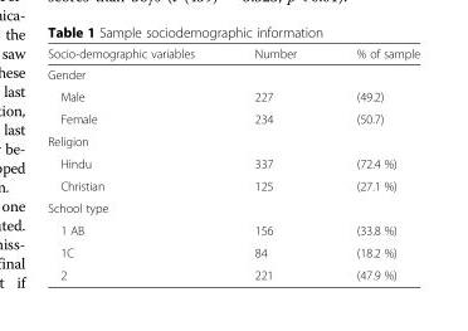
<table><thead><tr><td>Socio-demographic variables</td><td>Number</td><td>% of sample</td></tr></thead><tbody><tr><td colspan="3">Gender</td></tr><tr><td>Male</td><td>227</td><td>(49.2)</td></tr><tr><td>Female</td><td>234</td><td>(50.7)</td></tr><tr><td colspan="3">Religion</td></tr><tr><td>Hindu</td><td>337</td><td>(72.4 %)</td></tr><tr><td>Christian</td><td>125</td><td>(27.1 %)</td></tr><tr><td colspan="3">School type</td></tr><tr><td>1 AB</td><td>156</td><td>(33.8 %)</td></tr><tr><td>1C</td><td>84</td><td>(18.2 %)</td></tr><tr><td>2</td><td>221</td><td>(47.9 %)</td></tr></tbody></table>